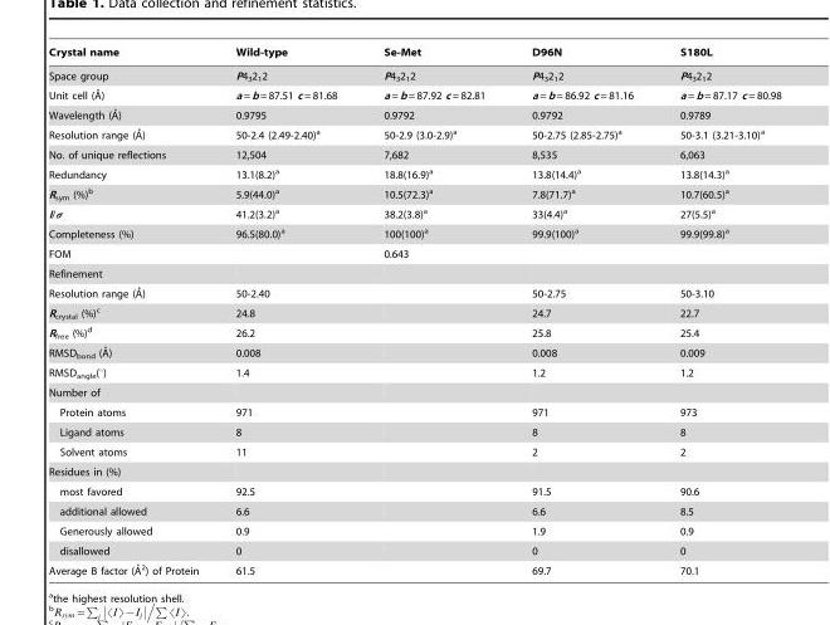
<table><thead><tr><td>Crystal name</td><td>Wild-type</td><td>Se-Met</td><td>D96N</td><td>S180L</td></tr></thead><tbody><tr><td>Space group</td><td>P4<sub>3</sub>2<sub>1</sub>2</td><td>P4<sub>3</sub>2<sub>1</sub>2</td><td>P4<sub>3</sub>2<sub>1</sub>2</td><td>P4<sub>3</sub>2<sub>1</sub>2</td></tr><tr><td>Unit cell (A˚)</td><td>a = b = 87.51 c = 81.68</td><td>a = b = 87.92 c = 82.81</td><td>a = b = 86.92 c = 81.16</td><td>a = b = 87.17 c = 80.98</td></tr><tr><td>Wavelength (A˚)</td><td>0.9795</td><td>0.9792</td><td>0.9792</td><td>0.9789</td></tr><tr><td>Resolution range (A˚)</td><td>50-2.4 (2.49-2.40)<sup>a</sup></td><td>50-2.9 (3.0-2.9)<sup>a</sup></td><td>50-2.75 (2.85-2.75)<sup>a</sup></td><td>50-3.1 (3.21-3.10)<sup>a</sup></td></tr><tr><td>No. of unique reflections</td><td>12,504</td><td>7,682</td><td>8,535</td><td>6,063</td></tr><tr><td>Redundancy</td><td>13.1(8.2)<sup>a</sup></td><td>18.8(16.9)<sup>a</sup></td><td>13.8(14.4)<sup>a</sup></td><td>13.8(14.3)<sup>a</sup></td></tr><tr><td>R<sub>sym</sub> (%)<sup>b</sup></td><td>5.9(44.0)<sup>a</sup></td><td>10.5(72.3)<sup>a</sup></td><td>7.8(71.7)<sup>a</sup></td><td>10.7(60.5)<sup>a</sup></td></tr><tr><td>I/σ</td><td>41.2(3.2)<sup>a</sup></td><td>38.2(3.8)<sup>a</sup></td><td>33(4.4)<sup>a</sup></td><td>27(5.5)<sup>a</sup></td></tr><tr><td>Completeness (%)</td><td>96.5(80.0)<sup>a</sup></td><td>100(100)<sup>a</sup></td><td>99.9(100)<sup>a</sup></td><td>99.9(99.8)<sup>a</sup></td></tr><tr><td>FOM</td><td></td><td>0.643</td><td></td><td></td></tr><tr><td colspan="5">Refinement</td></tr><tr><td>Resolution range (A˚)</td><td>50-2.40</td><td></td><td>50-2.75</td><td>50-3.10</td></tr><tr><td>R<sub>crystal</sub> (%)<sup>c</sup></td><td>24.8</td><td></td><td>24.7</td><td>22.7</td></tr><tr><td>R<sub>free</sub> (%)<sup>d</sup></td><td>26.2</td><td></td><td>25.8</td><td>25.4</td></tr><tr><td>RMSDbond (A˚)</td><td>0.008</td><td></td><td>0.008</td><td>0.009</td></tr><tr><td>RMSD<sub>angle</sub>(°)</td><td>1.4</td><td></td><td>1.2</td><td>1.2</td></tr><tr><td colspan="5">Number of</td></tr><tr><td>Protein atoms</td><td>971</td><td></td><td>971</td><td>973</td></tr><tr><td>Ligand atoms</td><td>8</td><td></td><td>8</td><td>8</td></tr><tr><td>Solvent atoms</td><td>11</td><td></td><td>2</td><td>2</td></tr><tr><td colspan="5">Residues in (%)</td></tr><tr><td>most favored</td><td>92.5</td><td></td><td>91.5</td><td>90.6</td></tr><tr><td>additional allowed</td><td>6.6</td><td></td><td>6.6</td><td>8.5</td></tr><tr><td>Generously allowed</td><td>0.9</td><td></td><td>1.9</td><td>0.9</td></tr><tr><td>disallowed</td><td>0</td><td></td><td>0</td><td>0</td></tr><tr><td>Average B factor (A˚2) of Protein</td><td>61.5</td><td></td><td>69.7</td><td>70.1</td></tr></tbody></table>